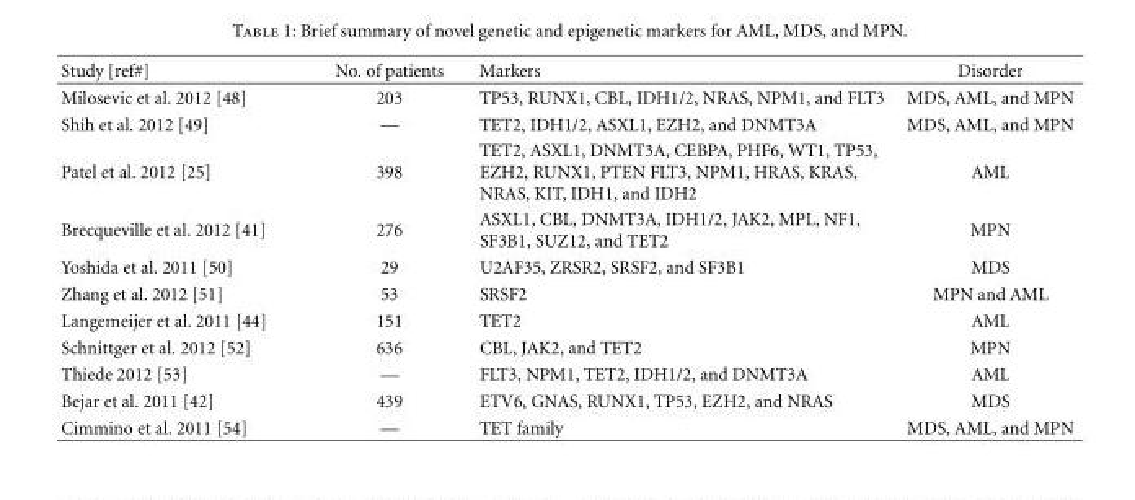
<table><thead><tr><td>Study [ref#]</td><td>No. of patients</td><td>Markers</td><td>Disorder</td></tr></thead><tbody><tr><td>Milosevic et al. 2012 [48]</td><td>203</td><td>TP53, RUNX1, CBL, IDH1/2, NRAS, NPM1, and FLT3</td><td>MDS, AML, and MPN</td></tr><tr><td>Shih et al. 2012 [49]</td><td>—</td><td>TET2, IDH1/2, ASXL1, EZH2, and DNMT3A</td><td>MDS, AML, and MPN</td></tr><tr><td>Patel et al. 2012 [25]</td><td>398</td><td>TET2, ASXL1, DNMT3A, CEBPA, PHF6, WT1, TP53, EZH2, RUNX1, PTEN FLT3, NPM1, HRAS, KRAS, NRAS, KIT, IDH1, and IDH2</td><td>AML</td></tr><tr><td>Brecqueville et al. 2012 [41]</td><td>276</td><td>ASXL1, CBL, DNMT3A, IDH1/2, JAK2, MPL, NF1, SF3B1, SUZ12, and TET2</td><td>MPN</td></tr><tr><td>Yoshida et al. 2011 [50]</td><td>29</td><td>U2AF35, ZRSR2, SRSF2, and SF3B1</td><td>MDS</td></tr><tr><td>Zhang et al. 2012 [51]</td><td>53</td><td>SRSF2</td><td>MPN and AML</td></tr><tr><td>Langemeijer et al. 2011 [44]</td><td>151</td><td>TET2</td><td>AML</td></tr><tr><td>Schnittger et al. 2012 [52]</td><td>636</td><td>CBL, JAK2, and TET2</td><td>MPN</td></tr><tr><td>Thiede 2012 [53]</td><td>—</td><td>FLT3, NPM1, TET2, IDH1/2, and DNMT3A</td><td>AML</td></tr><tr><td>Bejar et al. 2011 [42]</td><td>439</td><td>ETV6, GNAS, RUNX1, TP53, EZH2, and NRAS</td><td>MDS</td></tr><tr><td>Cimmino et al. 2011 [54]</td><td>—</td><td>TET family</td><td>MDS, AML, and MPN</td></tr></tbody></table>